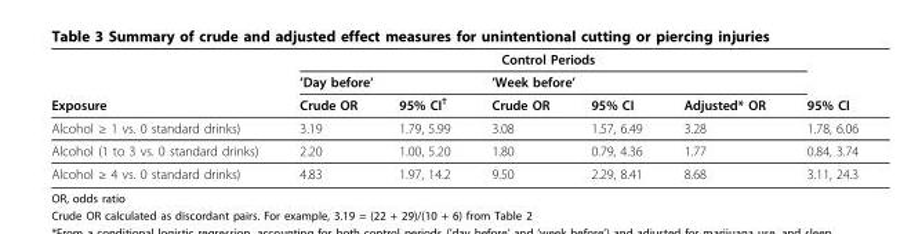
<table><thead><tr><td rowspan="3">Exposure</td><td colspan="5">Control Periods</td><td rowspan="3">95% CI</td></tr><tr><td colspan="2">’Day before’</td><td colspan="2">’Week before’</td><td rowspan="2">Adjusted* OR</td></tr><tr><td>Crude OR</td><td>95% CI<sup>†</sup></td><td>Crude OR</td><td>95% CI</td></tr></thead><tbody><tr><td>Alcohol ≥ 1 vs. 0 standard drinks)</td><td>3.19</td><td>1.79, 5.99</td><td>3.08</td><td>1.57, 6.49</td><td>3.28</td><td>1.78, 6.06</td></tr><tr><td>Alcohol (1 to 3 vs. 0 standard drinks)</td><td>2.20</td><td>1.00, 5.20</td><td>1.80</td><td>0.79, 4.36</td><td>1.77</td><td>0.84, 3.74</td></tr><tr><td>Alcohol ≥ 4 vs. 0 standard drinks)</td><td>4.83</td><td>1.97, 14.2</td><td>9.50</td><td>2.29, 8.41</td><td>8.68</td><td>3.11, 24.3</td></tr></tbody></table>